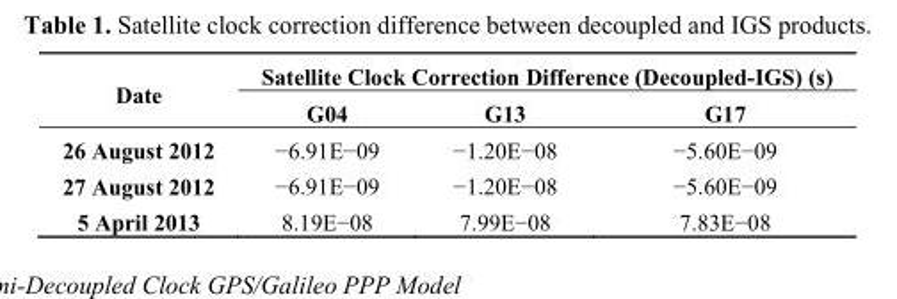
<table><thead><tr><td rowspan="2">Date</td><td colspan="3">Satellite Clock Correction Difference (Decoupled-IGS) (s)</td></tr><tr><td>G04</td><td>G13</td><td>G17</td></tr></thead><tbody><tr><td>26 August 2012</td><td>−6.91E−09</td><td>−1.20E−08</td><td>−5.60E−09</td></tr><tr><td>27 August 2012</td><td>−6.91E−09</td><td>−1.20E−08</td><td>−5.60E−09</td></tr><tr><td>5 April 2013</td><td>8.19E−08</td><td>7.99E−08</td><td>7.83E−08</td></tr></tbody></table>